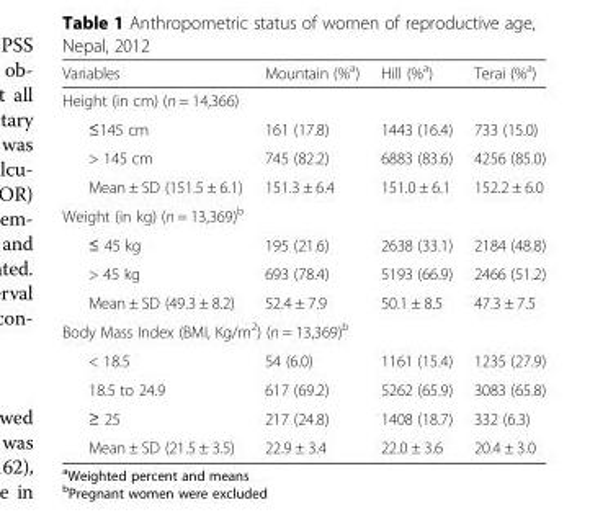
<table><thead><tr><td>Variables</td><td>Mountain (%<sup>a</sup>)</td><td>Hill (%<sup>a</sup>)</td><td>Terai (%<sup>a</sup>)</td></tr></thead><tbody><tr><td colspan="4">Height (in cm) (n = 14,366)</td></tr><tr><td>≤145 cm</td><td>161 (17.8)</td><td>1443 (16.4)</td><td>733 (15.0)</td></tr><tr><td>&gt; 145 cm</td><td>745 (82.2)</td><td>6883 (83.6)</td><td>4256 (85.0)</td></tr><tr><td>Mean ± SD (151.5 ± 6.1)</td><td>151.3 ± 6.4</td><td>151.0 ± 6.1</td><td>152.2 ± 6.0</td></tr><tr><td colspan="4">Weight (in kg) (n = 13,369)<sup>b</sup></td></tr><tr><td>≤ 45 kg</td><td>195 (21.6)</td><td>2638 (33.1)</td><td>2184 (48.8)</td></tr><tr><td>&gt; 45 kg</td><td>693 (78.4)</td><td>5193 (66.9)</td><td>2466 (51.2)</td></tr><tr><td>Mean ± SD (49.3 ± 8.2)</td><td>52.4 ± 7.9</td><td>50.1 ± 8.5</td><td>47.3 ± 7.5</td></tr><tr><td colspan="4">Body Mass Index (BMI, Kg/m<sup>2</sup>) (n = 13,369)<sup>b</sup></td></tr><tr><td>&lt; 18.5</td><td>54 (6.0)</td><td>1161 (15.4)</td><td>1235 (27.9)</td></tr><tr><td>18.5 to 24.9</td><td>617 (69.2)</td><td>5262 (65.9)</td><td>3083 (65.8)</td></tr><tr><td>≥ 25</td><td>217 (24.8)</td><td>1408 (18.7)</td><td>332 (6.3)</td></tr><tr><td>Mean ± SD (21.5 ± 3.5)</td><td>22.9 ± 3.4</td><td>22.0 ± 3.6</td><td>20.4 ± 3.0</td></tr></tbody></table>